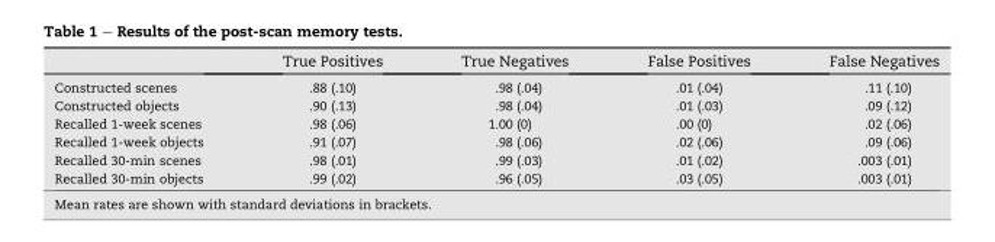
<table><thead><tr><td></td><td>True Positives</td><td>True Negatives</td><td>False Positives</td><td>False Negatives</td></tr></thead><tbody><tr><td>Constructed scenes</td><td>.88 (.10)</td><td>.98 (.04)</td><td>.01 (.04)</td><td>.11 (.10)</td></tr><tr><td>Constructed objects</td><td>.90 (.13)</td><td>.98 (.04)</td><td>.01 (.03)</td><td>.09 (.12)</td></tr><tr><td>Recalled 1-week scenes</td><td>.98 (.06)</td><td>1.00 (0)</td><td>.00 (0)</td><td>.02 (.06)</td></tr><tr><td>Recalled 1-week objects</td><td>.91 (.07)</td><td>.98 (.06)</td><td>.02 (.06)</td><td>.09 (.06)</td></tr><tr><td>Recalled 30-min scenes</td><td>.98 (.01)</td><td>.99 (.03)</td><td>.01 (.02)</td><td>.003 (.01)</td></tr><tr><td>Recalled 30-min objects</td><td>.99 (.02)</td><td>.96 (.05)</td><td>.03 (.05)</td><td>.003 (.01)</td></tr></tbody></table>